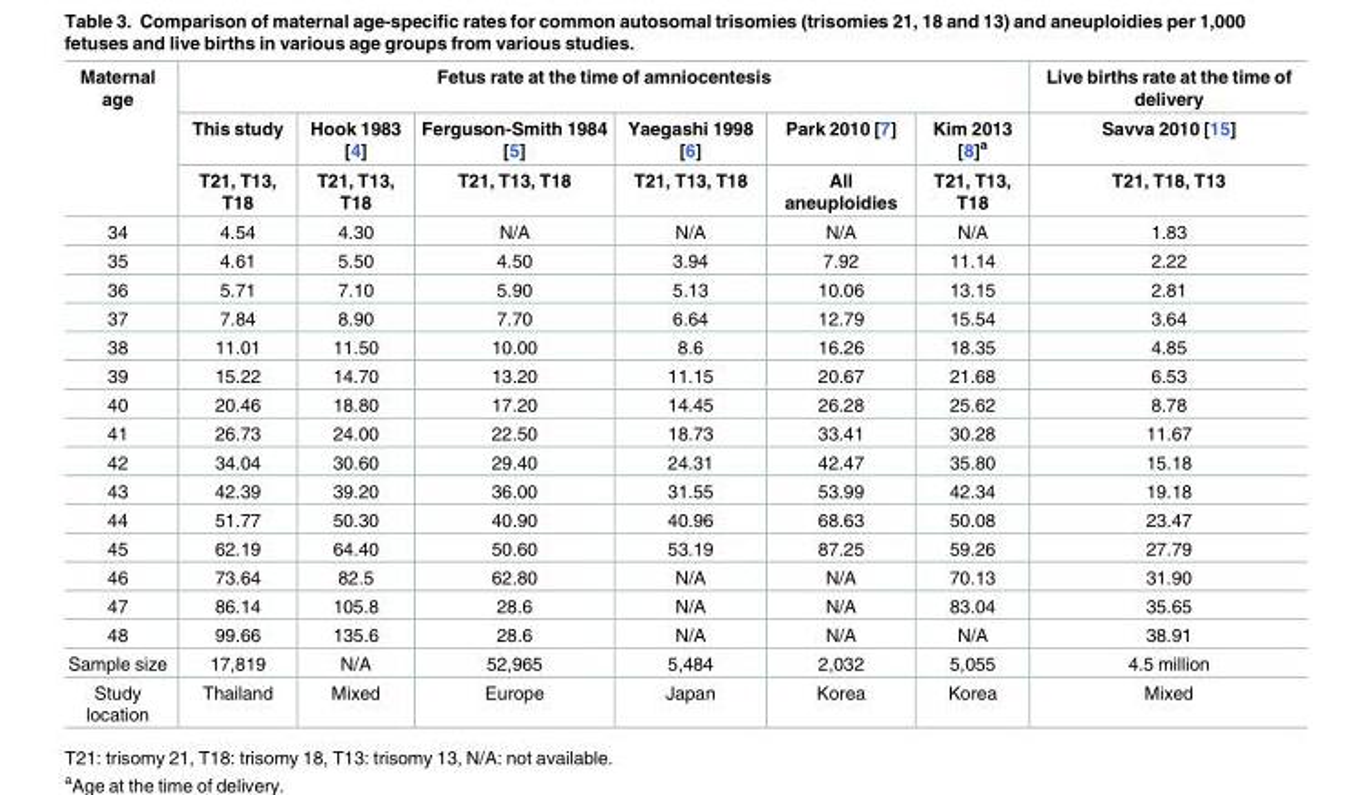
<table><thead><tr><td rowspan="3">Maternal age</td><td colspan="6">Fetus rate at the time of amniocentesis</td><td rowspan="3">Live births rate at the time of delivery Savva 2010 [15] T21, T18, T13</td></tr><tr><td rowspan="2">This study T21, T13, T18</td><td rowspan="2">Hook 1983 [4] T21, T13, T18</td><td rowspan="2">Ferguson-Smith 1984 [5] T21, T13, T18</td><td rowspan="2">Yaegashi 1998 [6] T21, T13, T18</td><td rowspan="2">Park 2010 [7] All aneuploidies</td><td rowspan="2">Kim 2013 [8]<sup>a</sup> T21, T13, T18</td></tr><tr></tr></thead><tbody><tr><td>34</td><td>4.54</td><td>4.30</td><td>N/A</td><td>N/A</td><td>N/A</td><td>N/A</td><td>1.83</td></tr><tr><td>35</td><td>4.61</td><td>5.50</td><td>4.50</td><td>3.94</td><td>7.92</td><td>11.14</td><td>2.22</td></tr><tr><td>36</td><td>5.71</td><td>7.10</td><td>5.90</td><td>5.13</td><td>10.06</td><td>13.15</td><td>2.81</td></tr><tr><td>37</td><td>7.84</td><td>8.90</td><td>7.70</td><td>6.64</td><td>12.79</td><td>15.54</td><td>3.64</td></tr><tr><td>38</td><td>11.01</td><td>11.50</td><td>10.00</td><td>8.6</td><td>16.26</td><td>18.35</td><td>4.85</td></tr><tr><td>39</td><td>15.22</td><td>14.70</td><td>13.20</td><td>11.15</td><td>20.67</td><td>21.68</td><td>6.53</td></tr><tr><td>40</td><td>20.46</td><td>18.80</td><td>17.20</td><td>14.45</td><td>26.28</td><td>25.62</td><td>8.78</td></tr><tr><td>41</td><td>26.73</td><td>24.00</td><td>22.50</td><td>18.73</td><td>33.41</td><td>30.28</td><td>11.67</td></tr><tr><td>42</td><td>34.04</td><td>30.60</td><td>29.40</td><td>24.31</td><td>42.47</td><td>35.80</td><td>15.18</td></tr><tr><td>43</td><td>42.39</td><td>39.20</td><td>36.00</td><td>31.55</td><td>53.99</td><td>42.34</td><td>19.18</td></tr><tr><td>44</td><td>51.77</td><td>50.30</td><td>40.90</td><td>40.96</td><td>68.63</td><td>50.08</td><td>23.47</td></tr><tr><td>45</td><td>62.19</td><td>64.40</td><td>50.60</td><td>53.19</td><td>87.25</td><td>59.26</td><td>27.79</td></tr><tr><td>46</td><td>73.64</td><td>82.5</td><td>62.80</td><td>N/A</td><td>N/A</td><td>70.13</td><td>31.90</td></tr><tr><td>47</td><td>86.14</td><td>105.8</td><td>28.6</td><td>N/A</td><td>N/A</td><td>83.04</td><td>35.65</td></tr><tr><td>48</td><td>99.66</td><td>135.6</td><td>28.6</td><td>N/A</td><td>N/A</td><td>N/A</td><td>38.91</td></tr><tr><td>Sample size</td><td>17,819</td><td>N/A</td><td>52,965</td><td>5,484</td><td>2,032</td><td>5,055</td><td>4.5 million</td></tr><tr><td>Study location</td><td>Thailand</td><td>Mixed</td><td>Europe</td><td>Japan</td><td>Korea</td><td>Korea</td><td>Mixed</td></tr></tbody></table>